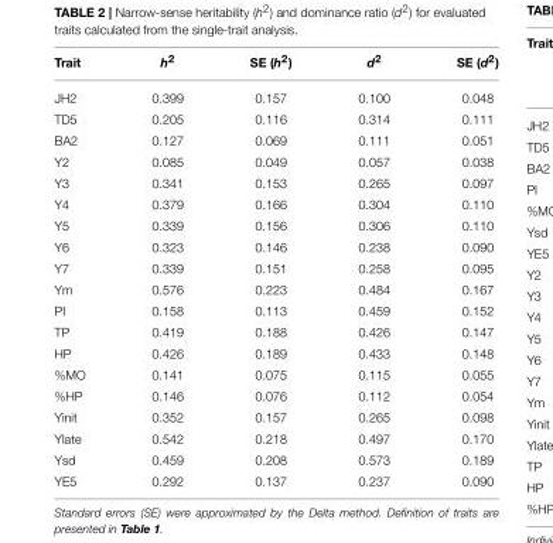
<table><thead><tr><td>Trait</td><td>h<sup>2</sup></td><td>SE (h<sup>2</sup>)</td><td>d<sup>2</sup></td><td>SE (d<sup>2</sup>)</td></tr></thead><tbody><tr><td>JH2</td><td>0.399</td><td>0.157</td><td>0.100</td><td>0.048</td></tr><tr><td>TD5</td><td>0.205</td><td>0.116</td><td>0.314</td><td>0.111</td></tr><tr><td>BA2</td><td>0.127</td><td>0.069</td><td>0.111</td><td>0.051</td></tr><tr><td>Y2</td><td>0.085</td><td>0.049</td><td>0.057</td><td>0.038</td></tr><tr><td>Y3</td><td>0.341</td><td>0.153</td><td>0.265</td><td>0.097</td></tr><tr><td>Y4</td><td>0.379</td><td>0.166</td><td>0.304</td><td>0.110</td></tr><tr><td>Y5</td><td>0.339</td><td>0.156</td><td>0.306</td><td>0.110</td></tr><tr><td>Y6</td><td>0.323</td><td>0.146</td><td>0.238</td><td>0.090</td></tr><tr><td>Y7</td><td>0.339</td><td>0.151</td><td>0.258</td><td>0.095</td></tr><tr><td>Ym</td><td>0.576</td><td>0.223</td><td>0.484</td><td>0.167</td></tr><tr><td>PI</td><td>0.158</td><td>0.113</td><td>0.459</td><td>0.152</td></tr><tr><td>TP</td><td>0.419</td><td>0.188</td><td>0.426</td><td>0.147</td></tr><tr><td>HP</td><td>0.426</td><td>0.189</td><td>0.433</td><td>0.148</td></tr><tr><td>%MO</td><td>0.141</td><td>0.075</td><td>0.115</td><td>0.055</td></tr><tr><td>%HP</td><td>0.146</td><td>0.076</td><td>0.112</td><td>0.054</td></tr><tr><td>Yinit</td><td>0.352</td><td>0.157</td><td>0.265</td><td>0.098</td></tr><tr><td>Ylate</td><td>0.542</td><td>0.218</td><td>0.497</td><td>0.170</td></tr><tr><td>Ysd</td><td>0.459</td><td>0.208</td><td>0.573</td><td>0.189</td></tr><tr><td>YE5</td><td>0.292</td><td>0.137</td><td>0.237</td><td>0.090</td></tr></tbody></table>